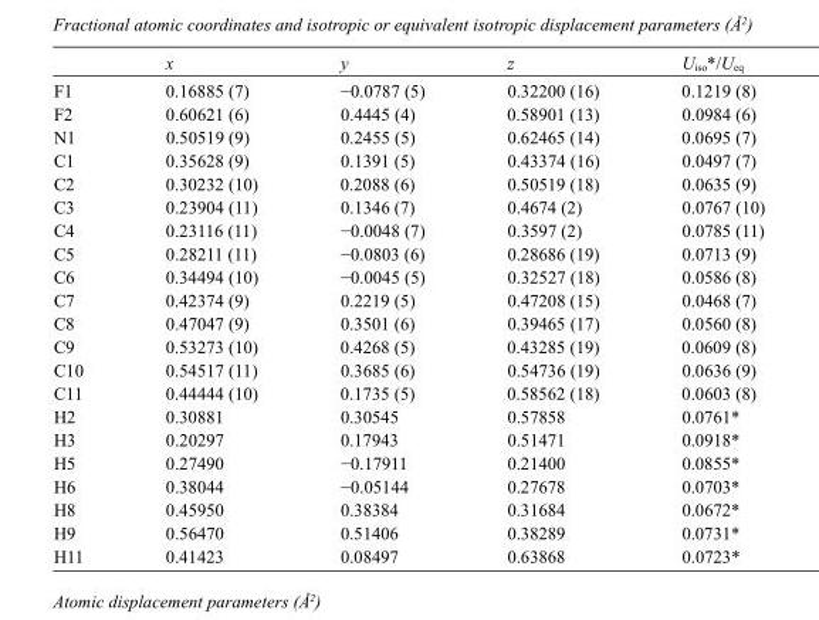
<table><thead><tr><td></td><td>x</td><td>y</td><td>z</td><td>U<sub>iso</sub>*/U<sub>eq</sub></td></tr></thead><tbody><tr><td>F1</td><td>0.16885 (7)</td><td>−0.0787 (5)</td><td>0.32200 (16)</td><td>0.1219 (8)</td></tr><tr><td>F2</td><td>0.60621 (6)</td><td>0.4445 (4)</td><td>0.58901 (13)</td><td>0.0984 (6)</td></tr><tr><td>N1</td><td>0.50519 (9)</td><td>0.2455 (5)</td><td>0.62465 (14)</td><td>0.0695 (7)</td></tr><tr><td>C1</td><td>0.35628 (9)</td><td>0.1391 (5)</td><td>0.43374 (16)</td><td>0.0497 (7)</td></tr><tr><td>C2</td><td>0.30232 (10)</td><td>0.2088 (6)</td><td>0.50519 (18)</td><td>0.0635 (9)</td></tr><tr><td>C3</td><td>0.23904 (11)</td><td>0.1346 (7)</td><td>0.4674 (2)</td><td>0.0767 (10)</td></tr><tr><td>C4</td><td>0.23116 (11)</td><td>−0.0048 (7)</td><td>0.3597 (2)</td><td>0.0785 (11)</td></tr><tr><td>C5</td><td>0.28211 (11)</td><td>−0.0803 (6)</td><td>0.28686 (19)</td><td>0.0713 (9)</td></tr><tr><td>C6</td><td>0.34494 (10)</td><td>−0.0045 (5)</td><td>0.32527 (18)</td><td>0.0586 (8)</td></tr><tr><td>C7</td><td>0.42374 (9)</td><td>0.2219 (5)</td><td>0.47208 (15)</td><td>0.0468 (7)</td></tr><tr><td>C8</td><td>0.47047 (9)</td><td>0.3501 (6)</td><td>0.39465 (17)</td><td>0.0560 (8)</td></tr><tr><td>C9</td><td>0.53273 (10)</td><td>0.4268 (5)</td><td>0.43285 (19)</td><td>0.0609 (8)</td></tr><tr><td>C10</td><td>0.54517 (11)</td><td>0.3685 (6)</td><td>0.54736 (19)</td><td>0.0636 (9)</td></tr><tr><td>C11</td><td>0.44444 (10)</td><td>0.1735 (5)</td><td>0.58562 (18)</td><td>0.0603 (8)</td></tr><tr><td>H2</td><td>0.30881</td><td>0.30545</td><td>0.57858</td><td>0.0761*</td></tr><tr><td>H3</td><td>0.20297</td><td>0.17943</td><td>0.51471</td><td>0.0918*</td></tr><tr><td>H5</td><td>0.27490</td><td>−0.17911</td><td>0.21400</td><td>0.0855*</td></tr><tr><td>H6</td><td>0.38044</td><td>−0.05144</td><td>0.27678</td><td>0.0703*</td></tr><tr><td>H8</td><td>0.45950</td><td>0.38384</td><td>0.31684</td><td>0.0672*</td></tr><tr><td>H9</td><td>0.56470</td><td>0.51406</td><td>0.38289</td><td>0.0731*</td></tr><tr><td>H11</td><td>0.41423</td><td>0.08497</td><td>0.63868</td><td>0.0723*</td></tr></tbody></table>